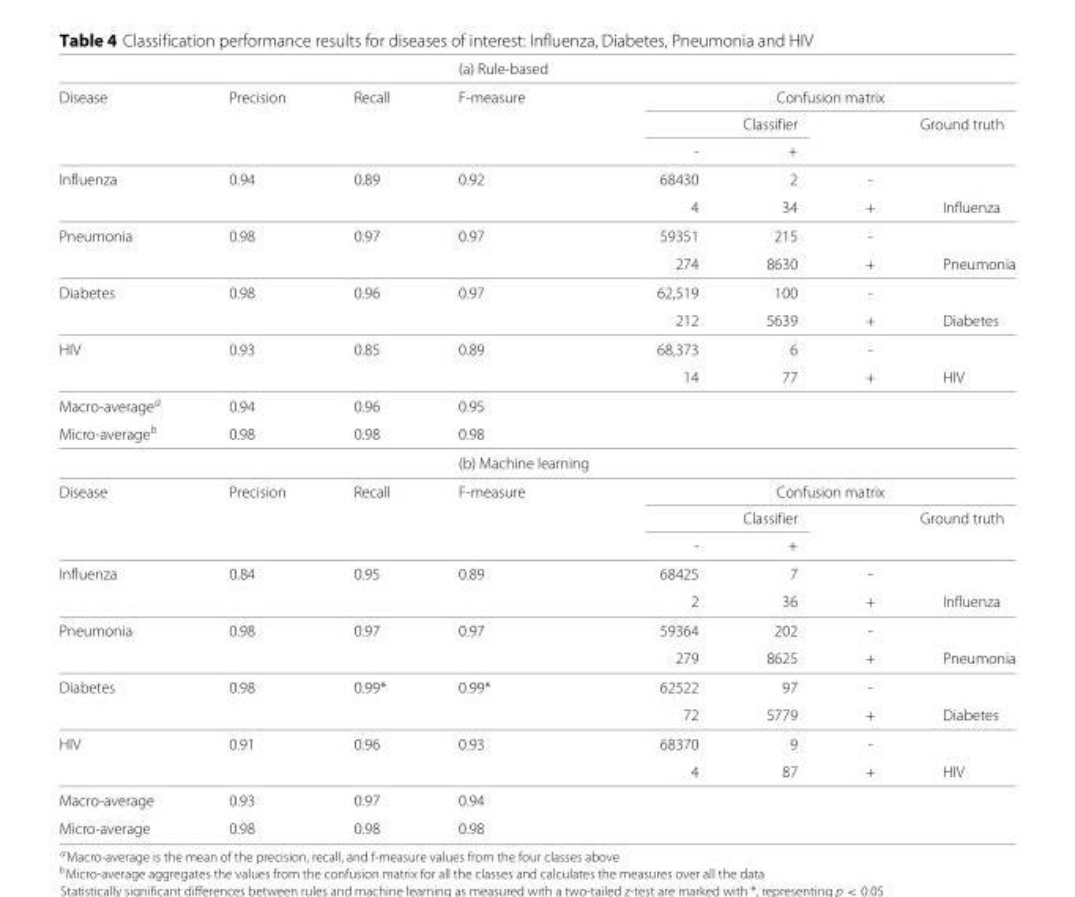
<table><thead><tr><td></td><td></td><td></td><td>(a) Rule-based</td><td></td><td></td><td></td><td></td></tr></thead><tbody><tr><td rowspan="3">Disease</td><td>Precision</td><td>Recall</td><td>F-measure</td><td colspan="4">Confusion matrix</td></tr><tr><td></td><td></td><td></td><td colspan="2">Classifier</td><td colspan="2">Ground truth</td></tr><tr><td></td><td></td><td></td><td>-</td><td>+</td><td></td><td></td></tr><tr><td rowspan="2">Influenza</td><td>0.94</td><td>0.89</td><td>0.92</td><td>68430</td><td>2</td><td>-</td><td></td></tr><tr><td></td><td></td><td></td><td>4</td><td>34</td><td>+</td><td>Influenza</td></tr><tr><td rowspan="2">Pneumonia</td><td>0.98</td><td>0.97</td><td>0.97</td><td>59351</td><td>215</td><td>-</td><td></td></tr><tr><td></td><td></td><td></td><td>274</td><td>8630</td><td>+</td><td>Pneumonia</td></tr><tr><td rowspan="2">Diabetes</td><td>0.98</td><td>0.96</td><td>0.97</td><td>62,519</td><td>100</td><td>-</td><td></td></tr><tr><td></td><td></td><td></td><td>212</td><td>5639</td><td>+</td><td>Diabetes</td></tr><tr><td rowspan="2">HIV</td><td>0.93</td><td>0.85</td><td>0.89</td><td>68,373</td><td>6</td><td>-</td><td></td></tr><tr><td></td><td></td><td></td><td>14</td><td>77</td><td>+</td><td>HIV</td></tr><tr><td>Macro-average<sup>a</sup></td><td>0.94</td><td>0.96</td><td>0.95</td><td></td><td></td><td></td><td></td></tr><tr><td rowspan="2">Micro-average<sup>b</sup></td><td>0.98</td><td>0.98</td><td>0.98</td><td></td><td></td><td></td><td></td></tr><tr><td></td><td></td><td>(b) Machine learning</td><td></td><td></td><td></td><td></td></tr><tr><td rowspan="3">Disease</td><td>Precision</td><td>Recall</td><td>F-measure</td><td colspan="4">Confusion matrix</td></tr><tr><td></td><td></td><td></td><td colspan="2">Classifier</td><td colspan="2">Ground truth</td></tr><tr><td></td><td></td><td></td><td>-</td><td>+</td><td></td><td></td></tr><tr><td rowspan="2">Influenza</td><td>0.84</td><td>0.95</td><td>0.89</td><td>68425</td><td>7</td><td>-</td><td></td></tr><tr><td></td><td></td><td></td><td>2</td><td>36</td><td>+</td><td>Influenza</td></tr><tr><td rowspan="2">Pneumonia</td><td>0.98</td><td>0.97</td><td>0.97</td><td>59364</td><td>202</td><td>-</td><td></td></tr><tr><td></td><td></td><td></td><td>279</td><td>8625</td><td>+</td><td>Pneumonia</td></tr><tr><td rowspan="2">Diabetes</td><td>0.98</td><td>0.99*</td><td>0.99*</td><td>62522</td><td>97</td><td>-</td><td></td></tr><tr><td></td><td></td><td></td><td>72</td><td>5779</td><td>+</td><td>Diabetes</td></tr><tr><td rowspan="2">HIV</td><td>0.91</td><td>0.96</td><td>0.93</td><td>68370</td><td>9</td><td>-</td><td></td></tr><tr><td></td><td></td><td></td><td>4</td><td>87</td><td>+</td><td>HIV</td></tr><tr><td>Macro-average</td><td>0.93</td><td>0.97</td><td>0.94</td><td></td><td></td><td></td><td></td></tr><tr><td>Micro-average</td><td>0.98</td><td>0.98</td><td>0.98</td><td></td><td></td><td></td><td></td></tr></tbody></table>